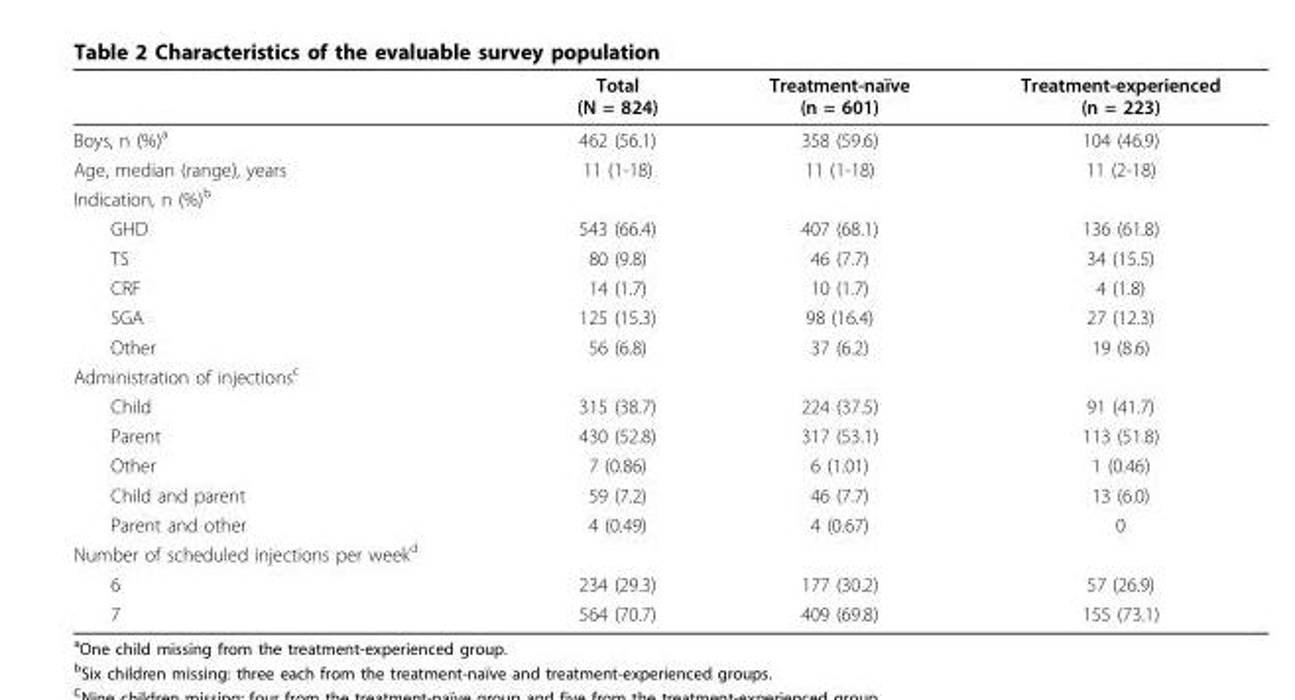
<table><thead><tr><td></td><td>Total (N = 824)</td><td>Treatment-naïve (n = 601)</td><td>Treatment-experienced (n = 223)</td></tr></thead><tbody><tr><td>Boys, n (%)<sup>a</sup></td><td>462 (56.1)</td><td>358 (59.6)</td><td>104 (46.9)</td></tr><tr><td>Age, median (range), years</td><td>11 (1-18)</td><td>11 (1-18)</td><td>11 (2-18)</td></tr><tr><td colspan="4">Indication, n (%)<sup>b</sup></td></tr><tr><td>GHD</td><td>543 (66.4)</td><td>407 (68.1)</td><td>136 (61.8)</td></tr><tr><td>TS</td><td>80 (9.8)</td><td>46 (7.7)</td><td>34 (15.5)</td></tr><tr><td>CRF</td><td>14 (1.7)</td><td>10 (1.7)</td><td>4 (1.8)</td></tr><tr><td>SGA</td><td>125 (15.3)</td><td>98 (16.4)</td><td>27 (12.3)</td></tr><tr><td>Other</td><td>56 (6.8)</td><td>37 (6.2)</td><td>19 (8.6)</td></tr><tr><td colspan="4">Administration of injections<sup>c</sup></td></tr><tr><td>Child</td><td>315 (38.7)</td><td>224 (37.5)</td><td>91 (41.7)</td></tr><tr><td>Parent</td><td>430 (52.8)</td><td>317 (53.1)</td><td>113 (51.8)</td></tr><tr><td>Other</td><td>7 (0.86)</td><td>6 (1.01)</td><td>1 (0.46)</td></tr><tr><td>Child and parent</td><td>59 (7.2)</td><td>46 (7.7)</td><td>13 (6.0)</td></tr><tr><td>Parent and other</td><td>4 (0.49)</td><td>4 (0.67)</td><td>0</td></tr><tr><td colspan="4">Number of scheduled injections per week<sup>d</sup></td></tr><tr><td>6</td><td>234 (29.3)</td><td>177 (30.2)</td><td>57 (26.9)</td></tr><tr><td>7</td><td>564 (70.7)</td><td>409 (69.8)</td><td>155 (73.1)</td></tr></tbody></table>